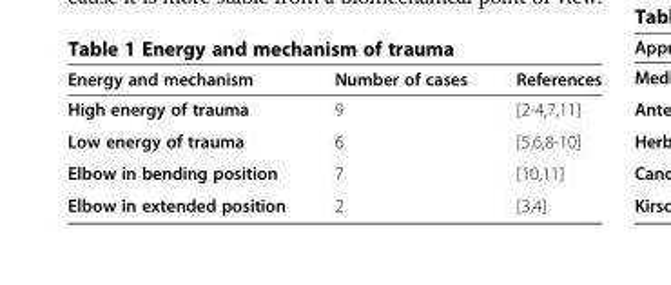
<table><thead><tr><td>Energy and mechanism</td><td>Number of cases</td><td>References</td></tr></thead><tbody><tr><td>High energy of trauma</td><td>9</td><td>[2-4,7,11]</td></tr><tr><td>Low energy of trauma</td><td>6</td><td>[5,6,8-10]</td></tr><tr><td>Elbow in bending position</td><td>7</td><td>[10,11]</td></tr><tr><td>Elbow in extended position</td><td>2</td><td>[3,4]</td></tr></tbody></table>